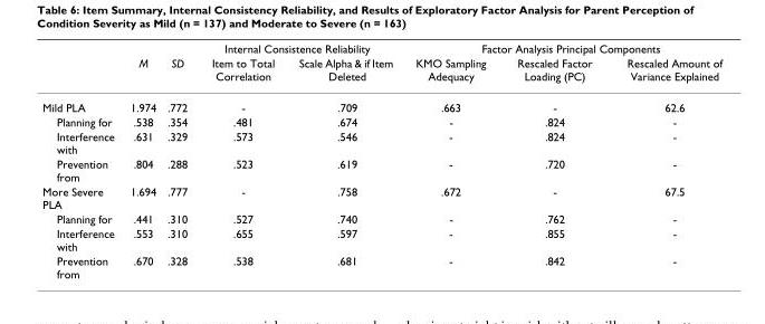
<table><thead><tr><td rowspan="2"></td><td rowspan="2">M</td><td rowspan="2">SD</td><td colspan="2">Internal Consistence Reliability</td><td colspan="3">Factor Analysis Principal Components</td></tr><tr><td>Item to Total Correlation</td><td>Scale Alpha &amp; if Item Deleted</td><td>KMO Sampling Adequacy</td><td>Rescaled Factor Loading (PC)</td><td>Rescaled Amount of Variance Explained</td></tr></thead><tbody><tr><td>Mild PLA</td><td>1.974</td><td>.772</td><td>-</td><td>.709</td><td>.663</td><td>-</td><td>62.6</td></tr><tr><td>Planning for</td><td>.538</td><td>.354</td><td>.481</td><td>.674</td><td>-</td><td>.824</td><td>-</td></tr><tr><td>Interference with</td><td>.631</td><td>.329</td><td>.573</td><td>.546</td><td>-</td><td>.824</td><td>-</td></tr><tr><td>Prevention from</td><td>.804</td><td>.288</td><td>.523</td><td>.619</td><td>-</td><td>.720</td><td>-</td></tr><tr><td>More Severe PLA</td><td>1.694</td><td>.777</td><td>-</td><td>.758</td><td>.672</td><td>-</td><td>67.5</td></tr><tr><td>Planning for</td><td>.441</td><td>.310</td><td>.527</td><td>.740</td><td>-</td><td>.762</td><td>-</td></tr><tr><td>Interference with</td><td>.553</td><td>.310</td><td>.655</td><td>.597</td><td>-</td><td>.855</td><td>-</td></tr><tr><td>Prevention from</td><td>.670</td><td>.328</td><td>.538</td><td>.681</td><td>-</td><td>.842</td><td>-</td></tr></tbody></table>